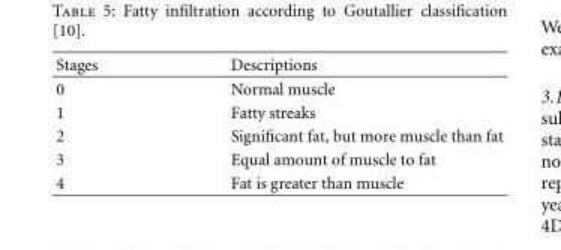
<table><thead><tr><td>Stages</td><td>Descriptions</td></tr></thead><tbody><tr><td>0</td><td>Normal muscle</td></tr><tr><td>1</td><td>Fatty streaks</td></tr><tr><td>2</td><td>Significant fat, but more muscle than fat</td></tr><tr><td>3</td><td>Equal amount of muscle to fat</td></tr><tr><td>4</td><td>Fat is greater than muscle</td></tr></tbody></table>